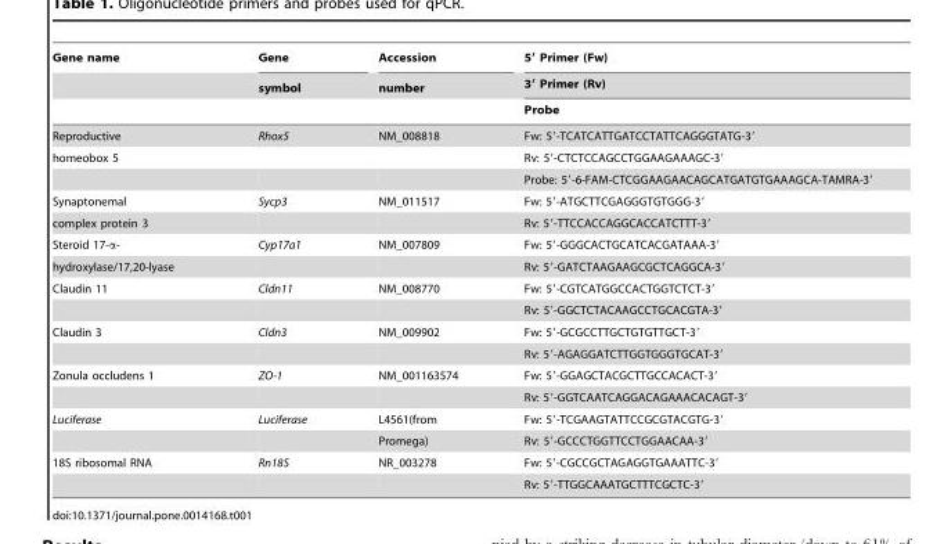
<table><thead><tr><td rowspan="3">Gene name</td><td rowspan="3">Gene symbol</td><td rowspan="3">Accession number</td><td rowspan="3">5′ Primer (Fw) 3′ Primer (Rv) Probe</td></tr><tr></tr><tr></tr></thead><tbody><tr><td>Reproductive</td><td>Rhox5</td><td>NM_008818</td><td>Fw: 5′-TCATCATTGATCCTATTCAGGGTATG-3′</td></tr><tr><td rowspan="2">homeobox 5</td><td></td><td></td><td>Rv: 5′-CTCTCCAGCCTGGAAGAAAGC-3′</td></tr><tr><td></td><td></td><td>Probe: 5′-6-FAM-CTCGGAAGAACAGCATGATGTGAAAGCA-TAMRA-3′</td></tr><tr><td>Synaptonemal</td><td>Sycp3</td><td>NM_011517</td><td>Fw: 5′-ATGCTTCGAGGGTGTGGG-3′</td></tr><tr><td>complex protein 3</td><td></td><td></td><td>Rv: 5′-TTCCACCAGGCACCATCTTT-3′</td></tr><tr><td>Steroid 17-α-</td><td>Cyp17a1</td><td>NM_007809</td><td>Fw: 5′-GGGCACTGCATCACGATAAA-3′</td></tr><tr><td>hydroxylase/17,20-lyase</td><td></td><td></td><td>Rv: 5′-GATCTAAGAAGCGCTCAGGCA-3′</td></tr><tr><td rowspan="2">Claudin 11</td><td>Cldn11</td><td>NM_008770</td><td>Fw: 5′-CGTCATGGCCACTGGTCTCT-3′</td></tr><tr><td></td><td></td><td>Rv: 5′-GGCTCTACAAGCCTGCACGTA-3′</td></tr><tr><td rowspan="2">Claudin 3</td><td>Cldn3</td><td>NM_009902</td><td>Fw: 5′-GCGCCTTGCTGTGTTGCT-3′</td></tr><tr><td></td><td></td><td>Rv: 5′-AGAGGATCTTGGTGGGTGCAT-3′</td></tr><tr><td rowspan="2">Zonula occludens 1</td><td>ZO-1</td><td>NM_001163574</td><td>Fw: 5′-GGAGCTACGCTTGCCACACT-3′</td></tr><tr><td></td><td></td><td>Rv: 5′-GGTCAATCAGGACAGAAACACAGT-3′</td></tr><tr><td rowspan="2">Luciferase</td><td>Luciferase</td><td>L4561(from</td><td>Fw: 5′-TCGAAGTATTCCGCGTACGTG-3′</td></tr><tr><td></td><td>Promega)</td><td>Rv: 5′-GCCCTGGTTCCTGGAACAA-3′</td></tr><tr><td rowspan="2">18S ribosomal RNA</td><td>Rn18S</td><td>NR_003278</td><td>Fw: 5′-CGCCGCTAGAGGTGAAATTC-3′</td></tr><tr><td></td><td></td><td>Rv: 5′-TTGGCAAATGCTTTCGCTC-3′</td></tr></tbody></table>